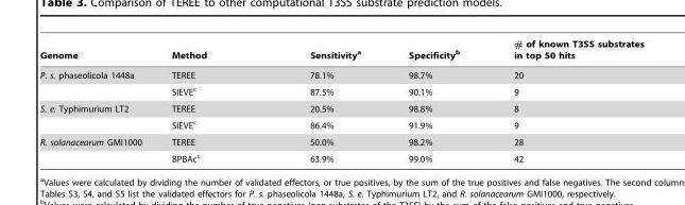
<table><thead><tr><td>Genome</td><td>Method</td><td>Sensitivity<sup>a</sup></td><td>Specificity<sup>b</sup></td><td># of known T3SS substrates in top 50 hits</td></tr></thead><tbody><tr><td rowspan="2">P. s. phaseolicola 1448a</td><td>TEREE</td><td>78.1%</td><td>98.7%</td><td>20</td></tr><tr><td>SIEVE<sup>c</sup></td><td>87.5%</td><td>90.1%</td><td>9</td></tr><tr><td rowspan="2">S. e. Typhimurium LT2</td><td>TEREE</td><td>20.5%</td><td>98.8%</td><td>8</td></tr><tr><td>SIEVE<sup>c</sup></td><td>86.4%</td><td>91.9%</td><td>9</td></tr><tr><td rowspan="2">R. solanacearum GMI1000</td><td>TEREE</td><td>50.0%</td><td>98.2%</td><td>28</td></tr><tr><td>BPBAc<sup>c</sup></td><td>63.9%</td><td>99.0%</td><td>42</td></tr></tbody></table>